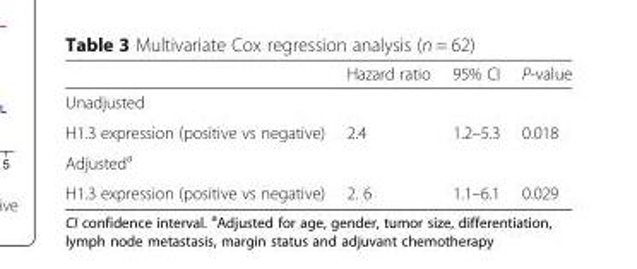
<table><thead><tr><td></td><td>Hazard ratio</td><td>95% CI</td><td>P-value</td></tr></thead><tbody><tr><td colspan="4">Unadjusted</td></tr><tr><td>H1.3 expression (positive vs negative)</td><td>2.4</td><td>1.2–5.3</td><td>0.018</td></tr><tr><td colspan="4">Adjusted<sup>a</sup></td></tr><tr><td>H1.3 expression (positive vs negative)</td><td>2. 6</td><td>1.1–6.1</td><td>0.029</td></tr></tbody></table>